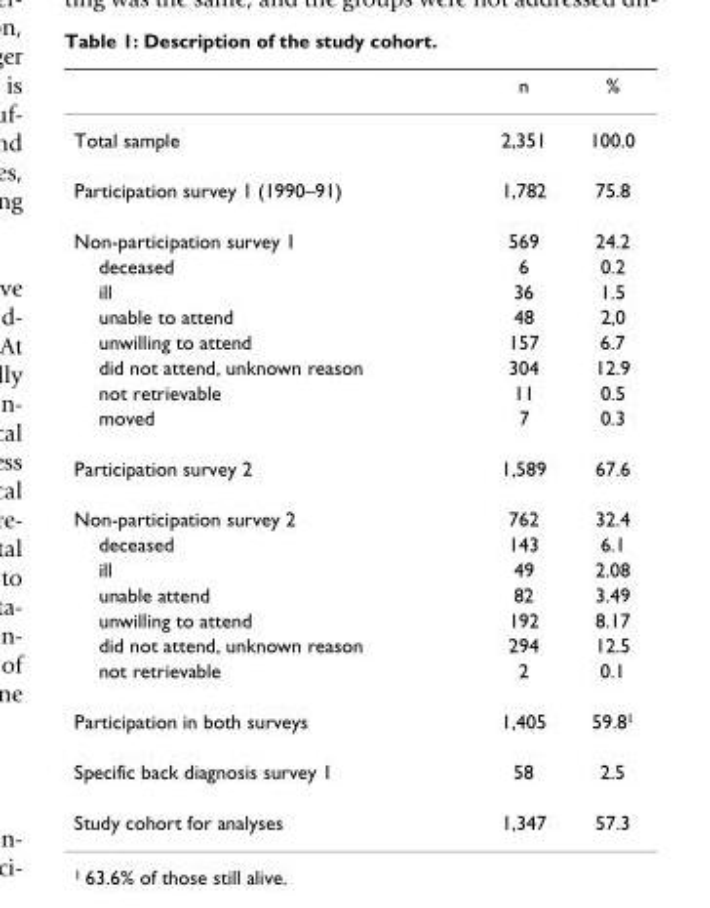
<table><thead><tr><td></td><td>n</td><td>%</td></tr></thead><tbody><tr><td>Total sample</td><td>2,351</td><td>100.0</td></tr><tr><td>Participation survey 1 (1990–91)</td><td>1,782</td><td>75.8</td></tr><tr><td>Non-participation survey 1</td><td>569</td><td>24.2</td></tr><tr><td>deceased</td><td>6</td><td>0.2</td></tr><tr><td>ill</td><td>36</td><td>1.5</td></tr><tr><td>unable to attend</td><td>48</td><td>2,0</td></tr><tr><td>unwilling to attend</td><td>157</td><td>6.7</td></tr><tr><td>did not attend, unknown reason</td><td>304</td><td>12.9</td></tr><tr><td>not retrievable</td><td>11</td><td>0.5</td></tr><tr><td>moved</td><td>7</td><td>0.3</td></tr><tr><td>Participation survey 2</td><td>1,589</td><td>67.6</td></tr><tr><td>Non-participation survey 2</td><td>762</td><td>32.4</td></tr><tr><td>deceased</td><td>143</td><td>6.1</td></tr><tr><td>ill</td><td>49</td><td>2.08</td></tr><tr><td>unable attend</td><td>82</td><td>3.49</td></tr><tr><td>unwilling to attend</td><td>192</td><td>8.17</td></tr><tr><td>did not attend, unknown reason</td><td>294</td><td>12.5</td></tr><tr><td>not retrievable</td><td>2</td><td>0.1</td></tr><tr><td>Participation in both surveys</td><td>1,405</td><td>59.81</td></tr><tr><td>Specific back diagnosis survey 1</td><td>58</td><td>2.5</td></tr><tr><td>Study cohort for analyses</td><td>1,347</td><td>57.3</td></tr></tbody></table>